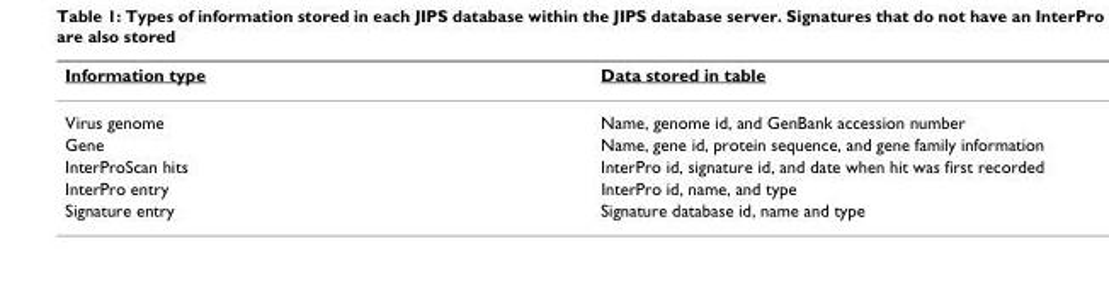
<table><thead><tr><td>Information type</td><td>Data stored in table</td></tr></thead><tbody><tr><td>Virus genome</td><td>Name, genome id, and GenBank accession number</td></tr><tr><td>Gene</td><td>Name, gene id, protein sequence, and gene family information</td></tr><tr><td>InterProScan hits</td><td>InterPro id, signature id, and date when hit was first recorded</td></tr><tr><td>InterPro entry</td><td>InterPro id, name, and type</td></tr><tr><td>Signature entry</td><td>Signature database id, name and type</td></tr></tbody></table>